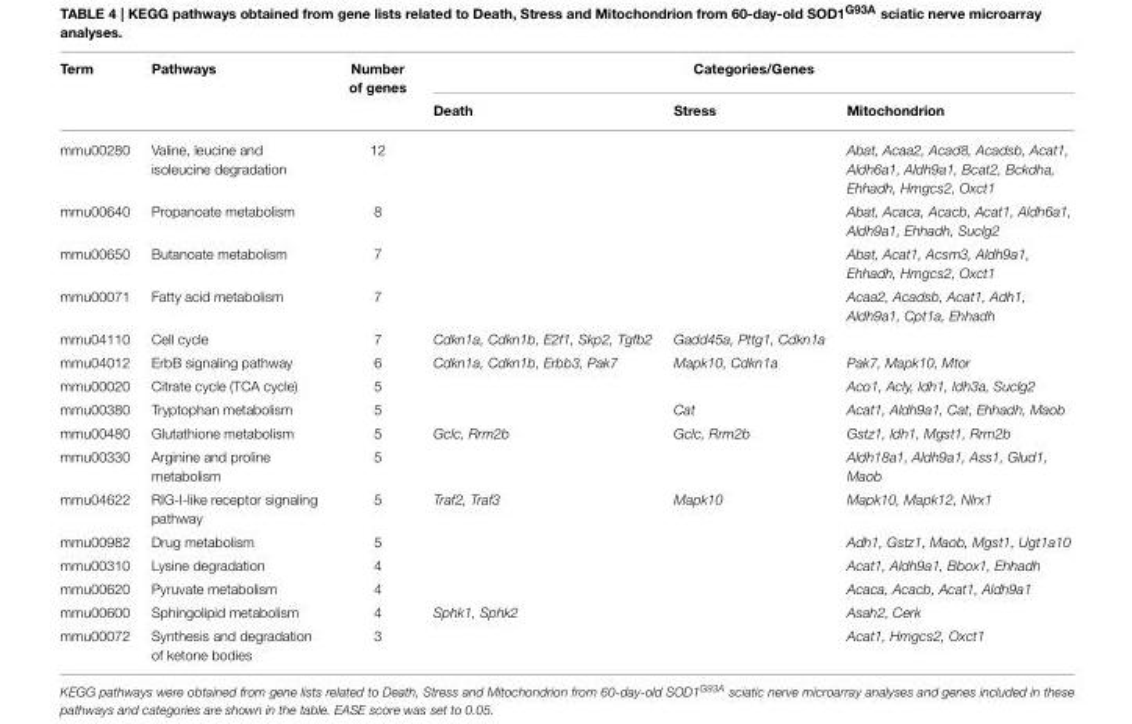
<table><thead><tr><td rowspan="2">Term</td><td rowspan="2">Pathways</td><td rowspan="2">Number of genes</td><td colspan="3">Categories/Genes</td></tr><tr><td>Death</td><td>Stress</td><td>Mitochondrion</td></tr></thead><tbody><tr><td>mmu00280</td><td>Valine, leucine and isoleucine degradation</td><td>12</td><td></td><td></td><td>Abat, Acaa2, Acad8, Acadsb, Acat1, Aldh6a1, Aldh9a1, Bcat2, Bckdha, Ehhadh, Hmgcs2, Oxct1</td></tr><tr><td>mmu00640</td><td>Propanoate metabolism</td><td>8</td><td></td><td></td><td>Abat, Acaca, Acacb, Acat1, Aldh6a1, Aldh9a1, Ehhadh, Suclg2</td></tr><tr><td>mmu00650</td><td>Butanoate metabolism</td><td>7</td><td></td><td></td><td>Abat, Acat1, Acsm3, Aldh9a1, Ehhadh, Hmgcs2, Oxct1</td></tr><tr><td>mmu00071</td><td>Fatty acid metabolism</td><td>7</td><td></td><td></td><td>Acaa2, Acadsb, Acat1, Adh1, Aldh9a1, Cpt1a, Ehhadh</td></tr><tr><td>mmu04110</td><td>Cell cycle</td><td>7</td><td>Cdkn1a, Cdkn1b, E2f1, Skp2, Tgfb2</td><td>Gadd45a, Pttg1, Cdkn1a</td><td></td></tr><tr><td>mmu04012</td><td>ErbB signaling pathway</td><td>6</td><td>Cdkn1a, Cdkn1b, Erbb3, Pak7</td><td>Mapk10, Cdkn1a</td><td>Pak7, Mapk10, Mtor</td></tr><tr><td>mmu00020</td><td>Citrate cycle (TCA cycle)</td><td>5</td><td></td><td></td><td>Aco1, Acly, Idh1, Idh3a, Suclg2</td></tr><tr><td>mmu00380</td><td>Tryptophan metabolism</td><td>5</td><td></td><td>Cat</td><td>Acat1, Aldh9a1, Cat, Ehhadh, Maob</td></tr><tr><td>mmu00480</td><td>Glutathione metabolism</td><td>5</td><td>Gclc, Rrm2b</td><td>Gclc, Rrm2b</td><td>Gstz1, Idh1, Mgst1, Rrm2b</td></tr><tr><td>mmu00330</td><td>Arginine and proline metabolism</td><td>5</td><td></td><td></td><td>Aldh18a1, Aldh9a1, Ass1, Glud1, Maob</td></tr><tr><td>mmu04622</td><td>RIG-I-like receptor signaling pathway</td><td>5</td><td>Traf2, Traf3</td><td>Mapk10</td><td>Mapk10, Mapk12, Nlrx1</td></tr><tr><td>mmu00982</td><td>Drug metabolism</td><td>5</td><td></td><td></td><td>Adh1, Gstz1, Maob, Mgst1, Ugt1a10</td></tr><tr><td>mmu00310</td><td>Lysine degradation</td><td>4</td><td></td><td></td><td>Acat1, Aldh9a1, Bbox1, Ehhadh</td></tr><tr><td>mmu00620</td><td>Pyruvate metabolism</td><td>4</td><td></td><td></td><td>Acaca, Acacb, Acat1, Aldh9a1</td></tr><tr><td>mmu00600</td><td>Sphingolipid metabolism</td><td>4</td><td>Sphk1, Sphk2</td><td></td><td>Asah2, Cerk</td></tr><tr><td>mmu00072</td><td>Synthesis and degradation of ketone bodies</td><td>3</td><td></td><td></td><td>Acat1, Hmgcs2, Oxct1</td></tr></tbody></table>